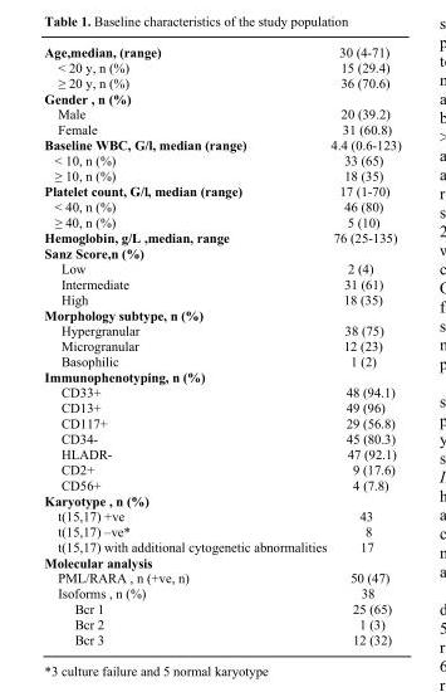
<table><tbody><tr><td>Age,median, (range)</td><td>30 (4-71)</td></tr><tr><td>&lt; 20 y, n (%)</td><td>15 (29.4)</td></tr><tr><td>≥ 20 y, n (%)</td><td>36 (70.6)</td></tr><tr><td colspan="2">Gender , n (%)</td></tr><tr><td>Male</td><td>20 (39.2)</td></tr><tr><td>Female</td><td>31 (60.8)</td></tr><tr><td>Baseline WBC, G/l, median (range)</td><td>4.4 (0.6-123)</td></tr><tr><td>&lt; 10, n (%)</td><td>33 (65)</td></tr><tr><td>≥ 10, n (%)</td><td>18 (35)</td></tr><tr><td>Platelet count, G/l, median (range)</td><td>17 (1-70)</td></tr><tr><td>&lt; 40, n (%)</td><td>46 (80)</td></tr><tr><td>≥ 40, n (%)</td><td>5 (10)</td></tr><tr><td>Hemoglobin, g/L ,median, range</td><td>76 (25-135)</td></tr><tr><td colspan="2">Sanz Score,n (%)</td></tr><tr><td>Low</td><td>2 (4)</td></tr><tr><td>Intermediate</td><td>31 (61)</td></tr><tr><td>High</td><td>18 (35)</td></tr><tr><td colspan="2">Morphology subtype, n (%)</td></tr><tr><td>Hypergranular</td><td>38 (75)</td></tr><tr><td>Microgranular</td><td>12 (23)</td></tr><tr><td>Basophilic</td><td>1 (2)</td></tr><tr><td colspan="2">Immunophenotyping, n (%)</td></tr><tr><td>CD33+</td><td>48 (94.1)</td></tr><tr><td>CD13+</td><td>49 (96)</td></tr><tr><td>CD117+</td><td>29 (56.8)</td></tr><tr><td>CD34-</td><td>45 (80.3)</td></tr><tr><td>HLADR-</td><td>47 (92.1)</td></tr><tr><td>CD2+</td><td>9 (17.6)</td></tr><tr><td>CD56+</td><td>4 (7.8)</td></tr><tr><td colspan="2">Karyotype , n (%)</td></tr><tr><td>t(15,17) +ve</td><td>43</td></tr><tr><td>t(15,17) –ve*</td><td>8</td></tr><tr><td>t(15,17) with additional cytogenetic abnormalities</td><td>17</td></tr><tr><td colspan="2">Molecular analysis</td></tr><tr><td>PML/RARA , n (+ve, n)</td><td>50 (47)</td></tr><tr><td>Isoforms , n (%)</td><td>38</td></tr><tr><td>Bcr 1</td><td>25 (65)</td></tr><tr><td>Bcr 2</td><td>1 (3)</td></tr><tr><td>Bcr 3</td><td>12 (32)</td></tr></tbody></table>